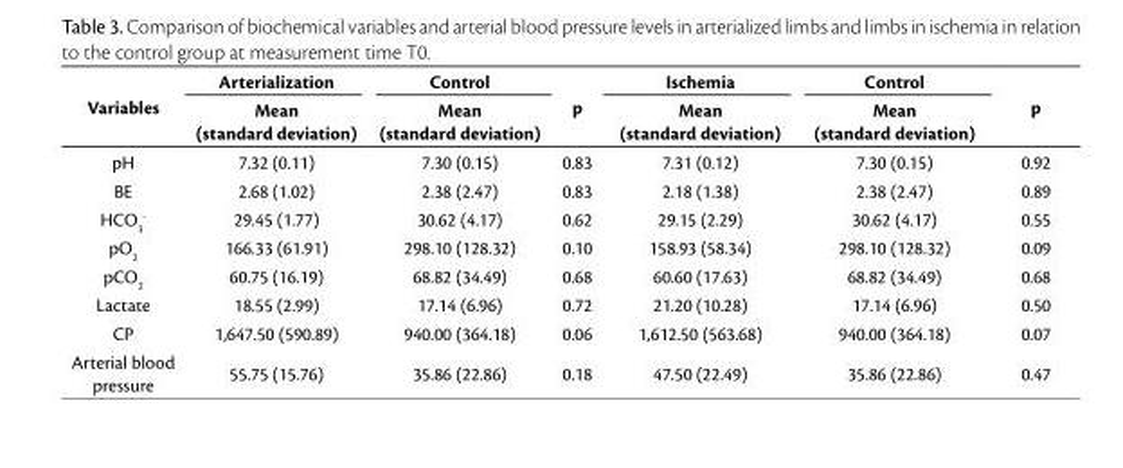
<table><thead><tr><td rowspan="2">Variables</td><td rowspan="2">Arterialization Mean (standard deviation)</td><td rowspan="2">Control Mean (standard deviation)</td><td rowspan="2">p</td><td rowspan="2">Ischemia Mean (standard deviation)</td><td rowspan="2">Control Mean (standard deviation)</td><td rowspan="2">p</td></tr><tr></tr></thead><tbody><tr><td>pH</td><td>7.32 (0.11)</td><td>7.30 (0.15)</td><td>0.83</td><td>7.31 (0.12)</td><td>7.30 (0.15)</td><td>0.92</td></tr><tr><td>BE</td><td>2.68 (1.02)</td><td>2.38 (2.47)</td><td>0.83</td><td>2.18 (1.38)</td><td>2.38 (2.47)</td><td>0.89</td></tr><tr><td>HCO3 -</td><td>29.45 (1.77)</td><td>30.62 (4.17)</td><td>0.62</td><td>29.15 (2.29)</td><td>30.62 (4.17)</td><td>0.55</td></tr><tr><td>pO2</td><td>166.33 (61.91)</td><td>298.10 (128.32)</td><td>0.10</td><td>158.93 (58.34)</td><td>298.10 (128.32)</td><td>0.09</td></tr><tr><td>pCO2</td><td>60.75 (16.19)</td><td>68.82 (34.49)</td><td>0.68</td><td>60.60 (17.63)</td><td>68.82 (34.49)</td><td>0.68</td></tr><tr><td>Lactate</td><td>18.55 (2.99)</td><td>17.14 (6.96)</td><td>0.72</td><td>21.20 (10.28)</td><td>17.14 (6.96)</td><td>0.50</td></tr><tr><td>CP</td><td>1,647.50 (590.89)</td><td>940.00 (364.18)</td><td>0.06</td><td>1,612.50 (563.68)</td><td>940.00 (364.18)</td><td>0.07</td></tr><tr><td>Arterial blood pressure</td><td>55.75 (15.76)</td><td>35.86 (22.86)</td><td>0.18</td><td>47.50 (22.49)</td><td>35.86 (22.86)</td><td>0.47</td></tr></tbody></table>